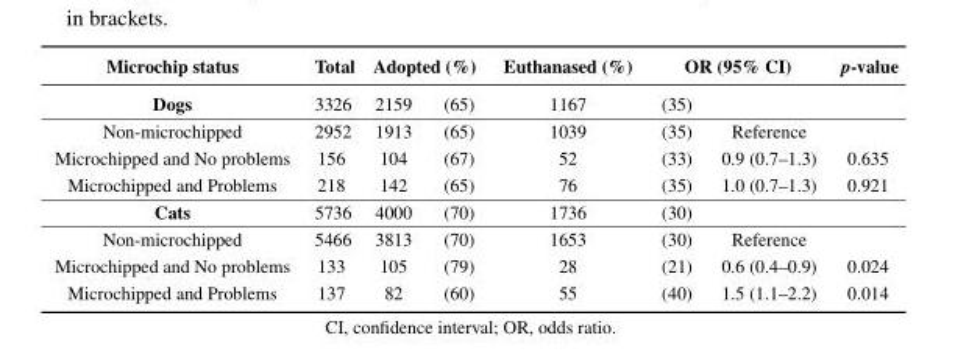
<table><thead><tr><td rowspan="2">Microchip status Dogs</td><td rowspan="2">Total 3326</td><td colspan="2">Adopted (%)</td><td rowspan="2">Euthanased (%) 1167</td><td colspan="2">OR (95% CI)</td><td rowspan="2">p-value</td></tr><tr><td>2159</td><td>(65)</td><td>(35)</td><td></td></tr></thead><tbody><tr><td>Non-microchipped</td><td>2952</td><td>1913</td><td>(65)</td><td>1039</td><td>(35)</td><td>Reference</td><td></td></tr><tr><td>Microchipped and No problems</td><td>156</td><td>104</td><td>(67)</td><td>52</td><td>(33)</td><td>0.9 (0.7–1.3)</td><td>0.635</td></tr><tr><td>Microchipped and Problems</td><td>218</td><td>142</td><td>(65)</td><td>76</td><td>(35)</td><td>1.0 (0.7–1.3)</td><td>0.921</td></tr><tr><td>Cats</td><td>5736</td><td>4000</td><td>(70)</td><td>1736</td><td>(30)</td><td></td><td></td></tr><tr><td>Non-microchipped</td><td>5466</td><td>3813</td><td>(70)</td><td>1653</td><td>(30)</td><td>Reference</td><td></td></tr><tr><td>Microchipped and No problems</td><td>133</td><td>105</td><td>(79)</td><td>28</td><td>(21)</td><td>0.6 (0.4–0.9)</td><td>0.024</td></tr><tr><td>Microchipped and Problems</td><td>137</td><td>82</td><td>(60)</td><td>55</td><td>(40)</td><td>1.5 (1.1–2.2)</td><td>0.014</td></tr></tbody></table>